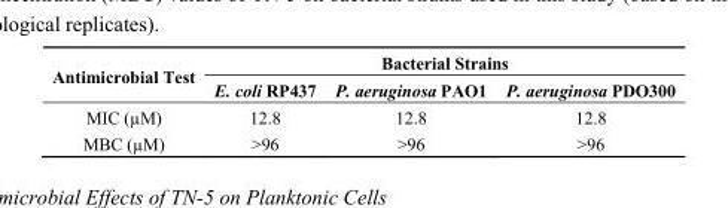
<table><thead><tr><td rowspan="2">Antimicrobial Test</td><td colspan="3">Bacterial Strains</td></tr><tr><td>E. coli RP437</td><td>P. aeruginosa PAO1</td><td>P. aeruginosa PDO300</td></tr></thead><tbody><tr><td>MIC (µM)</td><td>12.8</td><td>12.8</td><td>12.8</td></tr><tr><td>MBC (µM)</td><td>&gt;96</td><td>&gt;96</td><td>&gt;96</td></tr></tbody></table>